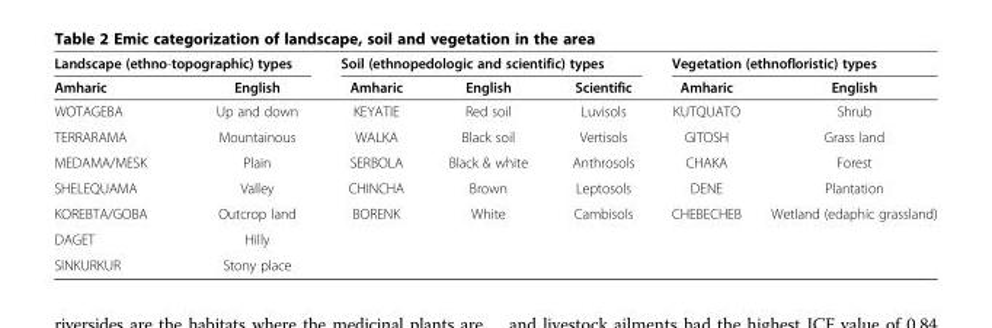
<table><thead><tr><td colspan="2">Landscape (ethno-topographic) types</td><td colspan="3">Soil (ethnopedologic and scientific) types</td><td colspan="2">Vegetation (ethnofloristic) types</td></tr><tr><td>Amharic</td><td>English</td><td>Amharic</td><td>English</td><td>Scientific</td><td>Amharic</td><td>English</td></tr></thead><tbody><tr><td>WOTAGEBA</td><td>Up and down</td><td>KEYATIE</td><td>Red soil</td><td>Luvisols</td><td>KUTQUATO</td><td>Shrub</td></tr><tr><td>TERRARAMA</td><td>Mountainous</td><td>WALKA</td><td>Black soil</td><td>Vertisols</td><td>GITOSH</td><td>Grass land</td></tr><tr><td>MEDAMA/MESK</td><td>Plain</td><td>SERBOLA</td><td>Black &amp; white</td><td>Anthrosols</td><td>CHAKA</td><td>Forest</td></tr><tr><td>SHELEQUAMA</td><td>Valley</td><td>CHINCHA</td><td>Brown</td><td>Leptosols</td><td>DENE</td><td>Plantation</td></tr><tr><td>KOREBTA/GOBA</td><td>Outcrop land</td><td>BORENK</td><td>White</td><td>Cambisols</td><td>CHEBECHEB</td><td>Wetland (edaphic grassland)</td></tr><tr><td>DAGET</td><td>Hilly</td><td></td><td></td><td></td><td></td><td></td></tr><tr><td>SINKURKUR</td><td>Stony place</td><td></td><td></td><td></td><td></td><td></td></tr></tbody></table>